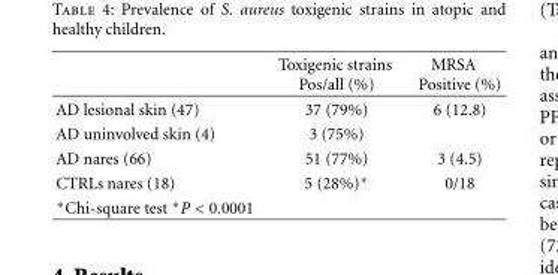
<table><thead><tr><td></td><td>Toxigenic strains Pos/all (%)</td><td>MRSA Positive (%)</td></tr></thead><tbody><tr><td>AD lesional skin (47)</td><td>37 (79%)</td><td>6 (12.8)</td></tr><tr><td>AD uninvolved skin (4)</td><td>3 (75%)</td><td></td></tr><tr><td>AD nares (66)</td><td>51 (77%)</td><td>3 (4.5)</td></tr><tr><td>CTRLs nares (18)</td><td>5 (28%)∗</td><td>0/18</td></tr><tr><td>∗Chi-square test ∗P &lt; 0.0001</td><td></td><td></td></tr></tbody></table>